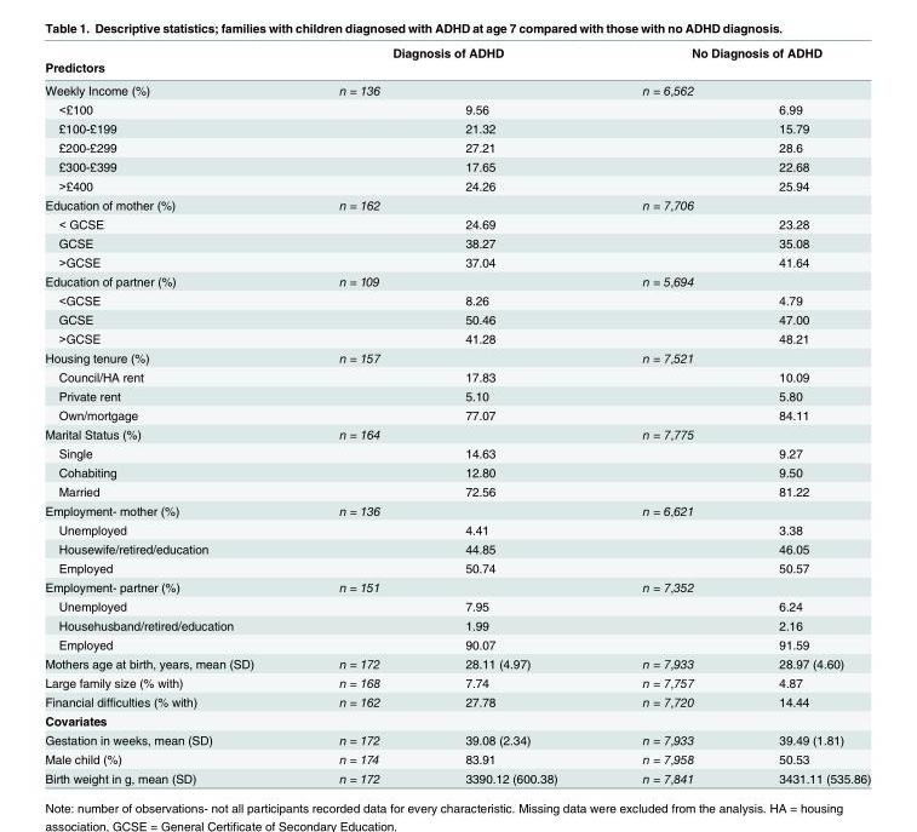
<table><thead><tr><td rowspan="2">Predictors</td><td colspan="2">Diagnosis of ADHD</td><td colspan="2">No Diagnosis of ADHD</td></tr><tr><td></td><td></td><td></td><td></td></tr></thead><tbody><tr><td>Weekly Income (%)</td><td>n = 136</td><td></td><td>n = 6,562</td><td></td></tr><tr><td>&lt;£100</td><td></td><td>9.56</td><td></td><td>6.99</td></tr><tr><td>£100-£199</td><td></td><td>21.32</td><td></td><td>15.79</td></tr><tr><td>£200-£299</td><td></td><td>27.21</td><td></td><td>28.6</td></tr><tr><td>£300-£399</td><td></td><td>17.65</td><td></td><td>22.68</td></tr><tr><td>&gt;£400</td><td></td><td>24.26</td><td></td><td>25.94</td></tr><tr><td>Education of mother (%)</td><td>n = 162</td><td></td><td>n = 7,706</td><td></td></tr><tr><td>&lt; GCSE</td><td></td><td>24.69</td><td></td><td>23.28</td></tr><tr><td>GCSE</td><td></td><td>38.27</td><td></td><td>35.08</td></tr><tr><td>&gt;GCSE</td><td></td><td>37.04</td><td></td><td>41.64</td></tr><tr><td>Education of partner (%)</td><td>n = 109</td><td></td><td>n = 5,694</td><td></td></tr><tr><td>&lt;GCSE</td><td></td><td>8.26</td><td></td><td>4.79</td></tr><tr><td>GCSE</td><td></td><td>50.46</td><td></td><td>47.00</td></tr><tr><td>&gt;GCSE</td><td></td><td>41.28</td><td></td><td>48.21</td></tr><tr><td>Housing tenure (%)</td><td>n = 157</td><td></td><td>n = 7,521</td><td></td></tr><tr><td>Council/HA rent</td><td></td><td>17.83</td><td></td><td>10.09</td></tr><tr><td>Private rent</td><td></td><td>5.10</td><td></td><td>5.80</td></tr><tr><td>Own/mortgage</td><td></td><td>77.07</td><td></td><td>84.11</td></tr><tr><td>Marital Status (%)</td><td>n = 164</td><td></td><td>n = 7,775</td><td></td></tr><tr><td>Single</td><td></td><td>14.63</td><td></td><td>9.27</td></tr><tr><td>Cohabiting</td><td></td><td>12.80</td><td></td><td>9.50</td></tr><tr><td>Married</td><td></td><td>72.56</td><td></td><td>81.22</td></tr><tr><td>Employment- mother (%)</td><td>n = 136</td><td></td><td>n = 6,621</td><td></td></tr><tr><td>Unemployed</td><td></td><td>4.41</td><td></td><td>3.38</td></tr><tr><td>Housewife/retired/education</td><td></td><td>44.85</td><td></td><td>46.05</td></tr><tr><td>Employed</td><td></td><td>50.74</td><td></td><td>50.57</td></tr><tr><td>Employment- partner (%)</td><td>n = 151</td><td></td><td>n = 7,352</td><td></td></tr><tr><td>Unemployed</td><td></td><td>7.95</td><td></td><td>6.24</td></tr><tr><td>Househusband/retired/education</td><td></td><td>1.99</td><td></td><td>2.16</td></tr><tr><td>Employed</td><td></td><td>90.07</td><td></td><td>91.59</td></tr><tr><td>Mothers age at birth, years, mean (SD)</td><td>n = 172</td><td>28.11 (4.97)</td><td>n = 7,933</td><td>28.97 (4.60)</td></tr><tr><td>Large family size (% with)</td><td>n = 168</td><td>7.74</td><td>n = 7,757</td><td>4.87</td></tr><tr><td>Financial difficulties (% with)</td><td>n = 162</td><td>27.78</td><td>n = 7,720</td><td>14.44</td></tr><tr><td colspan="5">Covariates</td></tr><tr><td>Gestation in weeks, mean (SD)</td><td>n = 172</td><td>39.08 (2.34)</td><td>n = 7,933</td><td>39.49 (1.81)</td></tr><tr><td>Male child (%)</td><td>n = 174</td><td>83.91</td><td>n = 7,958</td><td>50.53</td></tr><tr><td>Birth weight in g, mean (SD)</td><td>n = 172</td><td>3390.12 (600.38)</td><td>n = 7,841</td><td>3431.11 (535.86)</td></tr></tbody></table>